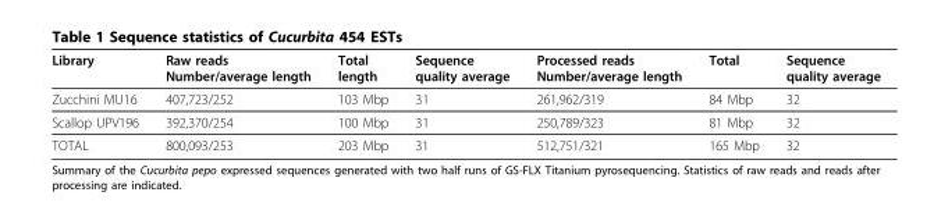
<table><thead><tr><td>Library</td><td>Raw reads Number/average length</td><td>Total length</td><td>Sequence quality average</td><td>Processed reads Number/average length</td><td>Total</td><td>Sequence quality average</td></tr></thead><tbody><tr><td>Zucchini MU16</td><td>407,723/252</td><td>103 Mbp</td><td>31</td><td>261,962/319</td><td>84 Mbp</td><td>32</td></tr><tr><td>Scallop UPV196</td><td>392,370/254</td><td>100 Mbp</td><td>31</td><td>250,789/323</td><td>81 Mbp</td><td>32</td></tr><tr><td>TOTAL</td><td>800,093/253</td><td>203 Mbp</td><td>31</td><td>512,751/321</td><td>165 Mbp</td><td>32</td></tr></tbody></table>